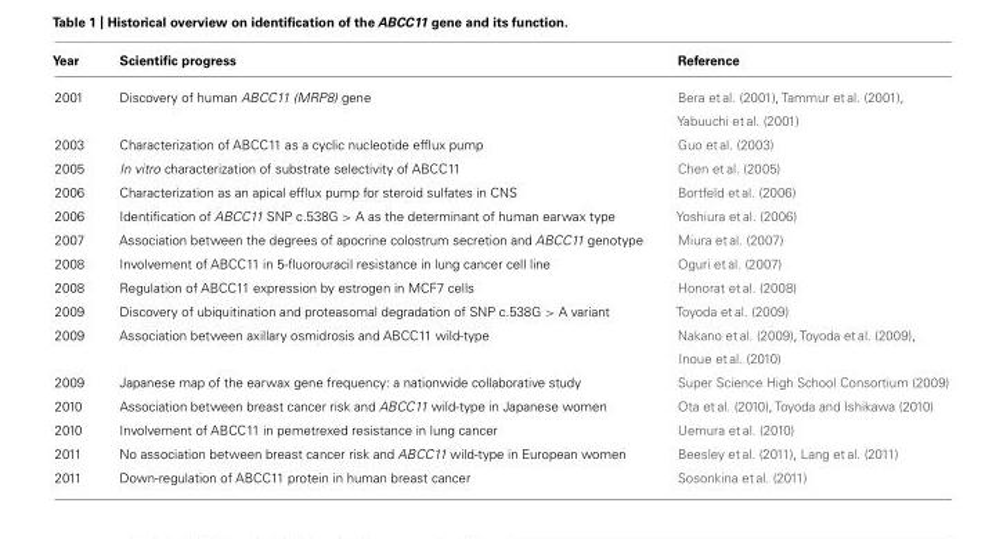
<table><thead><tr><td>Year</td><td>Scientific progress</td><td>Reference</td></tr></thead><tbody><tr><td>2001</td><td>Discovery of human ABCC11 (MRP8) gene</td><td>Bera et al. (2001), Tammur et al. (2001), Yabuuchi et al. (2001)</td></tr><tr><td>2003</td><td>Characterization of ABCC11 as a cyclic nucleotide efflux pump</td><td>Guo et al. (2003)</td></tr><tr><td>2005</td><td>In vitro characterization of substrate selectivity of ABCC11</td><td>Chen et al. (2005)</td></tr><tr><td>2006</td><td>Characterization as an apical efflux pump for steroid sulfates in CNS</td><td>Bortfeld et al. (2006)</td></tr><tr><td>2006</td><td>Identification of ABCC11 SNP c.538G &gt; A as the determinant of human earwax type</td><td>Yoshiura et al. (2006)</td></tr><tr><td>2007</td><td>Association between the degrees of apocrine colostrum secretion and ABCC11 genotype</td><td>Miura et al. (2007)</td></tr><tr><td>2008</td><td>Involvement of ABCC11 in 5-fluorouracil resistance in lung cancer cell line</td><td>Oguri et al. (2007)</td></tr><tr><td>2008</td><td>Regulation of ABCC11 expression by estrogen in MCF7 cells</td><td>Honorat et al. (2008)</td></tr><tr><td>2009</td><td>Discovery of ubiquitination and proteasomal degradation of SNP c.538G &gt; A variant</td><td>Toyoda et al. (2009)</td></tr><tr><td>2009</td><td>Association between axillary osmidrosis and ABCC11 wild-type</td><td>Nakano et al. (2009), Toyoda et al. (2009), Inoue et al. (2010)</td></tr><tr><td>2009</td><td>Japanese map of the earwax gene frequency: a nationwide collaborative study</td><td>Super Science High School Consortium (2009)</td></tr><tr><td>2010</td><td>Association between breast cancer risk and ABCC11 wild-type in Japanese women</td><td>Ota et al. (2010), Toyoda and Ishikawa (2010)</td></tr><tr><td>2010</td><td>Involvement of ABCC11 in pemetrexed resistance in lung cancer</td><td>Uemura et al. (2010)</td></tr><tr><td>2011</td><td>No association between breast cancer risk and ABCC11 wild-type in European women</td><td>Beesley et al. (2011), Lang et al. (2011)</td></tr><tr><td>2011</td><td>Down-regulation of ABCC11 protein in human breast cancer</td><td>Sosonkina et al. (2011)</td></tr></tbody></table>